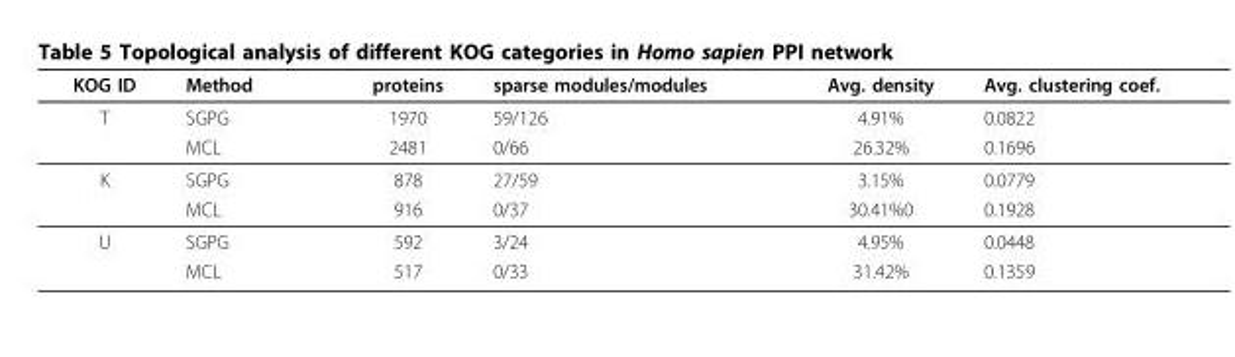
<table><thead><tr><td>KOG ID</td><td>Method</td><td>proteins</td><td>sparse modules/modules</td><td>Avg. density</td><td>Avg. clustering coef.</td></tr></thead><tbody><tr><td rowspan="2">T</td><td>SGPG</td><td>1970</td><td>59/126</td><td>4.91%</td><td>0.0822</td></tr><tr><td>MCL</td><td>2481</td><td>0/66</td><td>26.32%</td><td>0.1696</td></tr><tr><td rowspan="2">K</td><td>SGPG</td><td>878</td><td>27/59</td><td>3.15%</td><td>0.0779</td></tr><tr><td>MCL</td><td>916</td><td>0/37</td><td>30.41%0</td><td>0.1928</td></tr><tr><td rowspan="2">U</td><td>SGPG</td><td>592</td><td>3/24</td><td>4.95%</td><td>0.0448</td></tr><tr><td>MCL</td><td>517</td><td>0/33</td><td>31.42%</td><td>0.1359</td></tr></tbody></table>